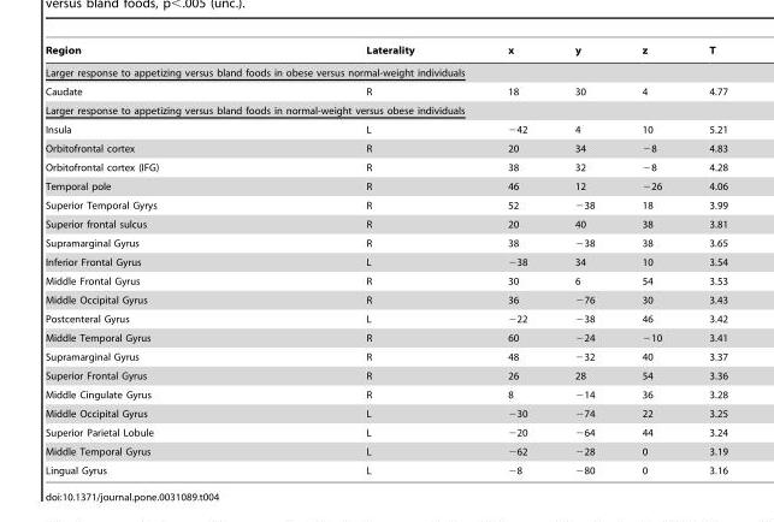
<table><thead><tr><td>Region</td><td>Laterality</td><td>x</td><td>y</td><td>z</td><td>T</td></tr></thead><tbody><tr><td colspan="6">Larger response to appetizing versus bland foods in obese versus normal-weight individuals</td></tr><tr><td>Caudate</td><td>R</td><td>18</td><td>30</td><td>4</td><td>4.77</td></tr><tr><td colspan="6">Larger response to appetizing versus bland foods in normal-weight versus obese individuals</td></tr><tr><td>Insula</td><td>L</td><td>−42</td><td>4</td><td>10</td><td>5.21</td></tr><tr><td>Orbitofrontal cortex</td><td>R</td><td>20</td><td>34</td><td>−8</td><td>4.83</td></tr><tr><td>Orbitofrontal cortex (IFG)</td><td>R</td><td>38</td><td>32</td><td>−8</td><td>4.28</td></tr><tr><td>Temporal pole</td><td>R</td><td>46</td><td>12</td><td>−26</td><td>4.06</td></tr><tr><td>Superior Temporal Gyrys</td><td>R</td><td>52</td><td>−38</td><td>18</td><td>3.99</td></tr><tr><td>Superior frontal sulcus</td><td>R</td><td>20</td><td>40</td><td>38</td><td>3.81</td></tr><tr><td>Supramarginal Gyrus</td><td>R</td><td>38</td><td>−38</td><td>38</td><td>3.65</td></tr><tr><td>Inferior Frontal Gyrus</td><td>L</td><td>−38</td><td>34</td><td>10</td><td>3.54</td></tr><tr><td>Middle Frontal Gyrus</td><td>R</td><td>30</td><td>6</td><td>54</td><td>3.53</td></tr><tr><td>Middle Occipital Gyrus</td><td>R</td><td>36</td><td>−76</td><td>30</td><td>3.43</td></tr><tr><td>Postcenteral Gyrus</td><td>L</td><td>−22</td><td>−38</td><td>46</td><td>3.42</td></tr><tr><td>Middle Temporal Gyrus</td><td>R</td><td>60</td><td>−24</td><td>−10</td><td>3.41</td></tr><tr><td>Supramarginal Gyrus</td><td>R</td><td>48</td><td>−32</td><td>40</td><td>3.37</td></tr><tr><td>Superior Frontal Gyrus</td><td>R</td><td>26</td><td>28</td><td>54</td><td>3.36</td></tr><tr><td>Middle Cingulate Gyrus</td><td>R</td><td>8</td><td>−14</td><td>36</td><td>3.28</td></tr><tr><td>Middle Occipital Gyrus</td><td>L</td><td>−30</td><td>−74</td><td>22</td><td>3.25</td></tr><tr><td>Superior Parietal Lobule</td><td>L</td><td>−20</td><td>−64</td><td>44</td><td>3.24</td></tr><tr><td>Middle Temporal Gyrus</td><td>L</td><td>−62</td><td>−28</td><td>0</td><td>3.19</td></tr><tr><td>Lingual Gyrus</td><td>L</td><td>−8</td><td>−80</td><td>0</td><td>3.16</td></tr></tbody></table>